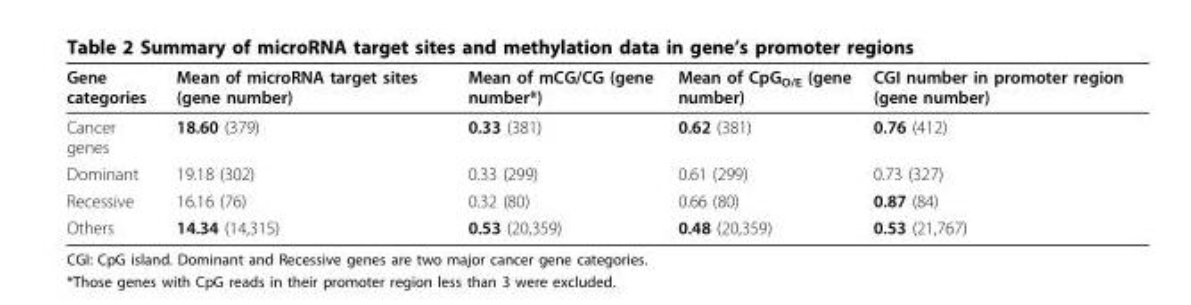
<table><thead><tr><td>Gene categories</td><td>Mean of microRNA target sites (gene number)</td><td>Mean of mCG/CG (gene number*)</td><td>Mean of CpG<sub>O/E</sub> (gene number)</td><td>CGI number in promoter region (gene number)</td></tr></thead><tbody><tr><td>Cancer genes</td><td>18.60 (379)</td><td>0.33 (381)</td><td>0.62 (381)</td><td>0.76 (412)</td></tr><tr><td>Dominant</td><td>19.18 (302)</td><td>0.33 (299)</td><td>0.61 (299)</td><td>0.73 (327)</td></tr><tr><td>Recessive</td><td>16.16 (76)</td><td>0.32 (80)</td><td>0.66 (80)</td><td>0.87 (84)</td></tr><tr><td>Others</td><td>14.34 (14,315)</td><td>0.53 (20,359)</td><td>0.48 (20,359)</td><td>0.53 (21,767)</td></tr></tbody></table>